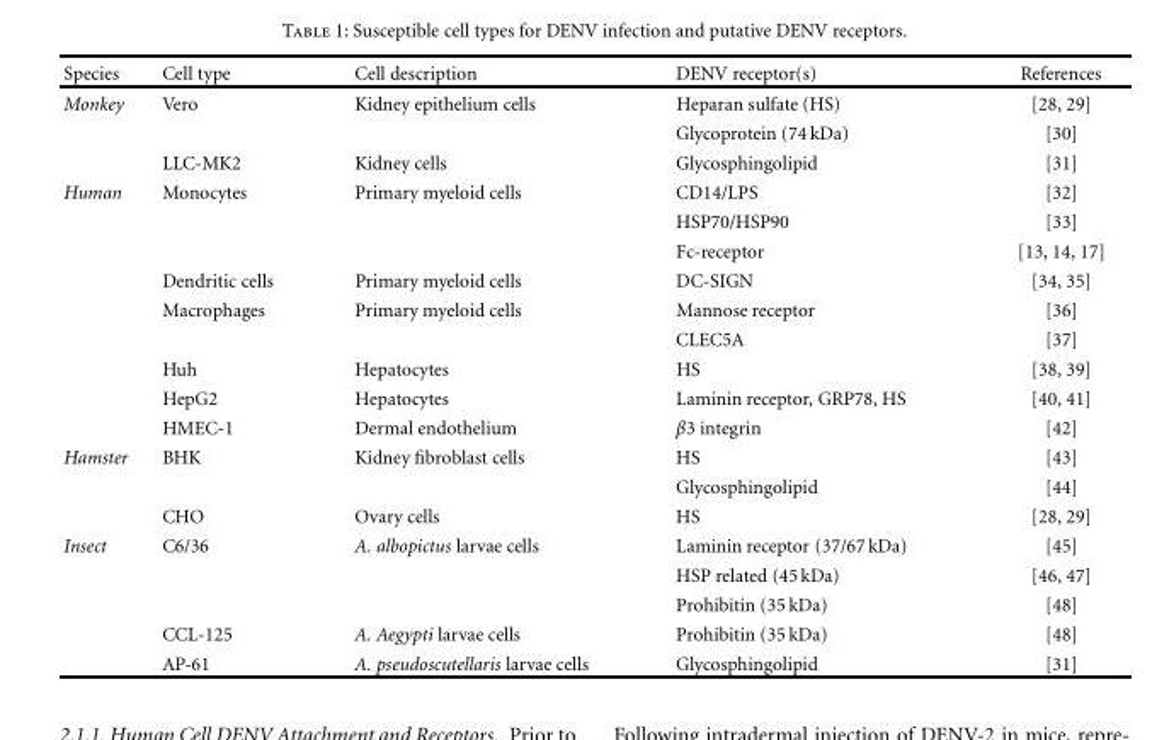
<table><thead><tr><td>Species</td><td>Cell type</td><td>Cell description</td><td>DENV receptor(s)</td><td>References</td></tr></thead><tbody><tr><td rowspan="3">Monkey</td><td>Vero</td><td>Kidney epithelium cells</td><td>Heparan sulfate (HS)</td><td>[28, 29]</td></tr><tr><td></td><td></td><td>Glycoprotein (74 kDa)</td><td>[30]</td></tr><tr><td>LLC-MK2</td><td>Kidney cells</td><td>Glycosphingolipid</td><td>[31]</td></tr><tr><td rowspan="9">Human</td><td>Monocytes</td><td>Primary myeloid cells</td><td>CD14/LPS</td><td>[32]</td></tr><tr><td></td><td></td><td>HSP70/HSP90</td><td>[33]</td></tr><tr><td></td><td></td><td>Fc-receptor</td><td>[13, 14, 17]</td></tr><tr><td>Dendritic cells</td><td>Primary myeloid cells</td><td>DC-SIGN</td><td>[34, 35]</td></tr><tr><td>Macrophages</td><td>Primary myeloid cells</td><td>Mannose receptor</td><td>[36]</td></tr><tr><td></td><td></td><td>CLEC5A</td><td>[37]</td></tr><tr><td>Huh</td><td>Hepatocytes</td><td>HS</td><td>[38, 39]</td></tr><tr><td>HepG2</td><td>Hepatocytes</td><td>Laminin receptor, GRP78, HS</td><td>[40, 41]</td></tr><tr><td>HMEC-1</td><td>Dermal endothelium</td><td>β3 integrin</td><td>[42]</td></tr><tr><td rowspan="3">Hamster</td><td>BHK</td><td>Kidney fibroblast cells</td><td>HS</td><td>[43]</td></tr><tr><td></td><td></td><td>Glycosphingolipid</td><td>[44]</td></tr><tr><td>CHO</td><td>Ovary cells</td><td>HS</td><td>[28, 29]</td></tr><tr><td rowspan="5">Insect</td><td>C6/36</td><td>A. albopictus larvae cells</td><td>Laminin receptor (37/67kDa)</td><td>[45]</td></tr><tr><td></td><td></td><td>HSP related (45kDa)</td><td>[46, 47]</td></tr><tr><td></td><td></td><td>Prohibitin (35 kDa)</td><td>[48]</td></tr><tr><td>CCL-125</td><td>A. Aegypti larvae cells</td><td>Prohibitin (35 kDa)</td><td>[48]</td></tr><tr><td>AP-61</td><td>A. pseudoscutellaris larvae cells</td><td>Glycosphingolipid</td><td>[31]</td></tr></tbody></table>